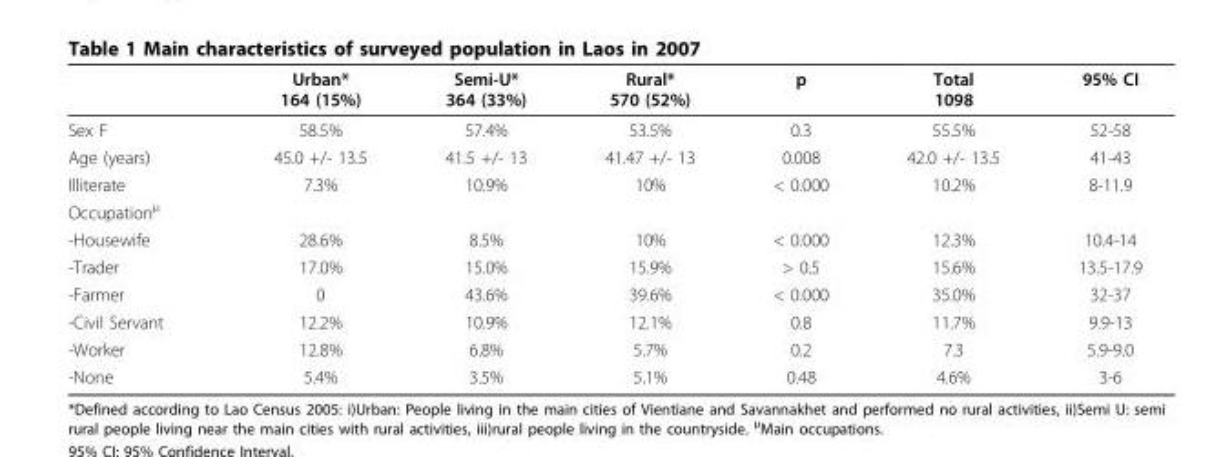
<table><thead><tr><td></td><td>Urban* 164 (15%)</td><td>Semi-U* 364 (33%)</td><td>Rural* 570 (52%)</td><td>p</td><td>Total 1098</td><td>95% CI</td></tr></thead><tbody><tr><td>Sex F</td><td>58.5%</td><td>57.4%</td><td>53.5%</td><td>0.3</td><td>55.5%</td><td>52-58</td></tr><tr><td>Age (years)</td><td>45.0 +/- 13.5</td><td>41.5 +/- 13</td><td>41.47 +/- 13</td><td>0.008</td><td>42.0 +/- 13.5</td><td>41-43</td></tr><tr><td>Illiterate</td><td>7.3%</td><td>10.9%</td><td>10%</td><td>&lt; 0.000</td><td>10.2%</td><td>8-11.9</td></tr><tr><td colspan="7">Occupation<sup>μ</sup></td></tr><tr><td>-Housewife</td><td>28.6%</td><td>8.5%</td><td>10%</td><td>&lt; 0.000</td><td>12.3%</td><td>10.4-14</td></tr><tr><td>-Trader</td><td>17.0%</td><td>15.0%</td><td>15.9%</td><td>&gt; 0.5</td><td>15.6%</td><td>13.5-17.9</td></tr><tr><td>-Farmer</td><td>0</td><td>43.6%</td><td>39.6%</td><td>&lt; 0.000</td><td>35.0%</td><td>32-37</td></tr><tr><td>-Civil Servant</td><td>12.2%</td><td>10.9%</td><td>12.1%</td><td>0.8</td><td>11.7%</td><td>9.9-13</td></tr><tr><td>-Worker</td><td>12.8%</td><td>6.8%</td><td>5.7%</td><td>0.2</td><td>7.3</td><td>5.9-9.0</td></tr><tr><td>-None</td><td>5.4%</td><td>3.5%</td><td>5.1%</td><td>0.48</td><td>4.6%</td><td>3-6</td></tr></tbody></table>